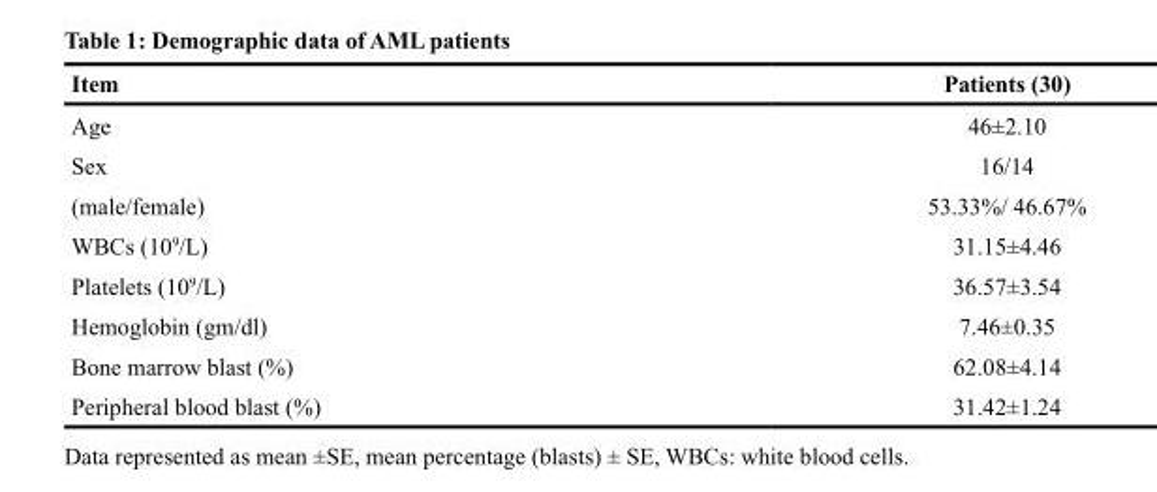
<table><thead><tr><td>Item</td><td>Patients (30)</td></tr></thead><tbody><tr><td>Age</td><td>46±2.10</td></tr><tr><td>Sex</td><td>16/14</td></tr><tr><td>(male/female)</td><td>53.33%/ 46.67%</td></tr><tr><td>WBCs (10<sup>9</sup>/L)</td><td>31.15±4.46</td></tr><tr><td>Platelets (10<sup>9</sup>/L)</td><td>36.57±3.54</td></tr><tr><td>Hemoglobin (gm/dl)</td><td>7.46±0.35</td></tr><tr><td>Bone marrow blast (%)</td><td>62.08±4.14</td></tr><tr><td>Peripheral blood blast (%)</td><td>31.42±1.24</td></tr></tbody></table>